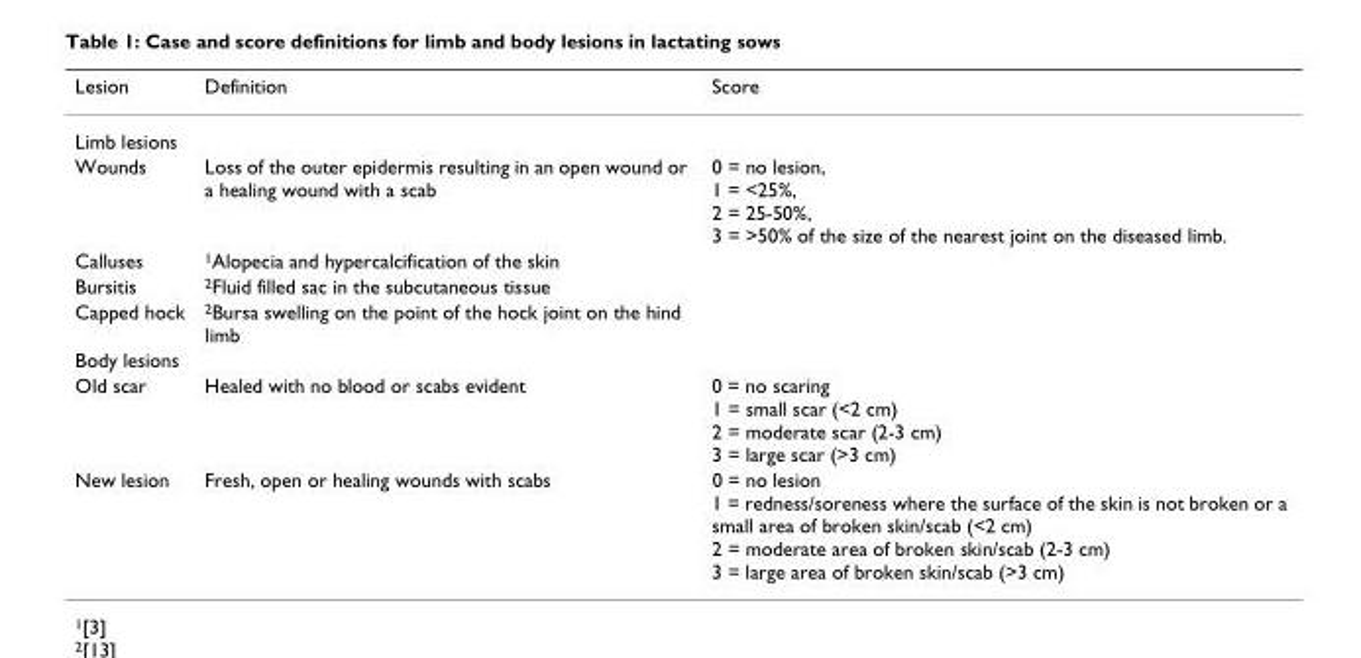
<table><thead><tr><td>Lesion</td><td>Definition</td><td>Score</td></tr></thead><tbody><tr><td colspan="3">Limb lesions</td></tr><tr><td>Wounds</td><td>Loss of the outer epidermis resulting in an open wound or a healing wound with a scab</td><td>0 = no lesion, 1 = &lt;25%, 2 = 25-50%, 3 = &gt;50% of the size of the nearest joint on the diseased limb.</td></tr><tr><td>Calluses</td><td><sup>1</sup>Alopecia and hypercalcification of the skin</td><td></td></tr><tr><td>Bursitis</td><td><sup>2</sup>Fluid filled sac in the subcutaneous tissue</td><td></td></tr><tr><td>Capped hock</td><td><sup>2</sup>Bursa swelling on the point of the hock joint on the hind limb</td><td></td></tr><tr><td colspan="3">Body lesions</td></tr><tr><td>Old scar</td><td>Healed with no blood or scabs evident</td><td>0 = no scaring 1 = small scar (&lt;2 cm) 2 = moderate scar (2-3 cm) 3 = large scar (&gt;3 cm)</td></tr><tr><td>New lesion</td><td>Fresh, open or healing wounds with scabs</td><td>0 = no lesion 1 = redness/soreness where the surface of the skin is not broken or a small area of broken skin/scab (&lt;2 cm) 2 = moderate area of broken skin/scab (2-3 cm) 3 = large area of broken skin/scab (&gt;3 cm)</td></tr></tbody></table>